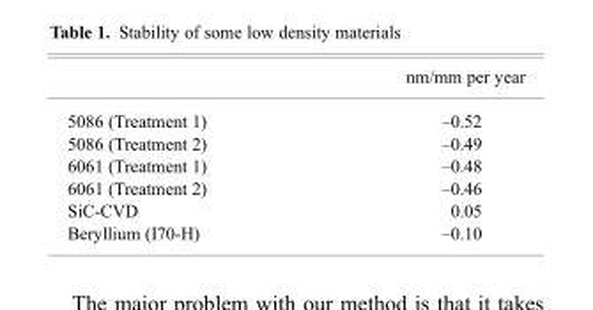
<table><thead><tr><td></td><td>nm/mm per year</td></tr></thead><tbody><tr><td>5086 (Treatment 1)</td><td>–0.52</td></tr><tr><td>5086 (Treatment 2)</td><td>–0.49</td></tr><tr><td>6061 (Treatment 1)</td><td>–0.48</td></tr><tr><td>6061 (Treatment 2)</td><td>–0.46</td></tr><tr><td>SiC-CVD</td><td>0.05</td></tr><tr><td>Beryllium (I70-H)</td><td>–0.10</td></tr></tbody></table>